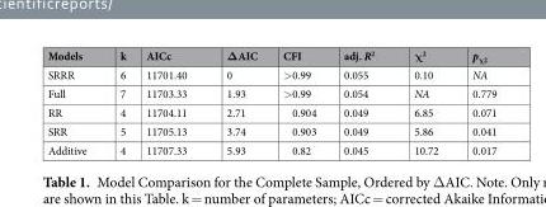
<table><thead><tr><td>Models</td><td>k</td><td>AICc</td><td>ΔAIC</td><td>CFI</td><td>adj. R<sup>2</sup></td><td>χ<sup>2</sup></td><td>p<sub>χ2</sub></td></tr></thead><tbody><tr><td>SRRR</td><td>6</td><td>11701.40</td><td>0</td><td>&gt;0.99</td><td>0.055</td><td>0.10</td><td>NA</td></tr><tr><td>Full</td><td>7</td><td>11703.33</td><td>1.93</td><td>&gt;0.99</td><td>0.054</td><td>NA</td><td>0.779</td></tr><tr><td>RR</td><td>4</td><td>11704.11</td><td>2.71</td><td>0.904</td><td>0.049</td><td>6.85</td><td>0.071</td></tr><tr><td>SRR</td><td>5</td><td>11705.13</td><td>3.74</td><td>0.903</td><td>0.049</td><td>5.86</td><td>0.041</td></tr><tr><td>Additive</td><td>4</td><td>11707.33</td><td>5.93</td><td>0.82</td><td>0.045</td><td>10.72</td><td>0.017</td></tr></tbody></table>